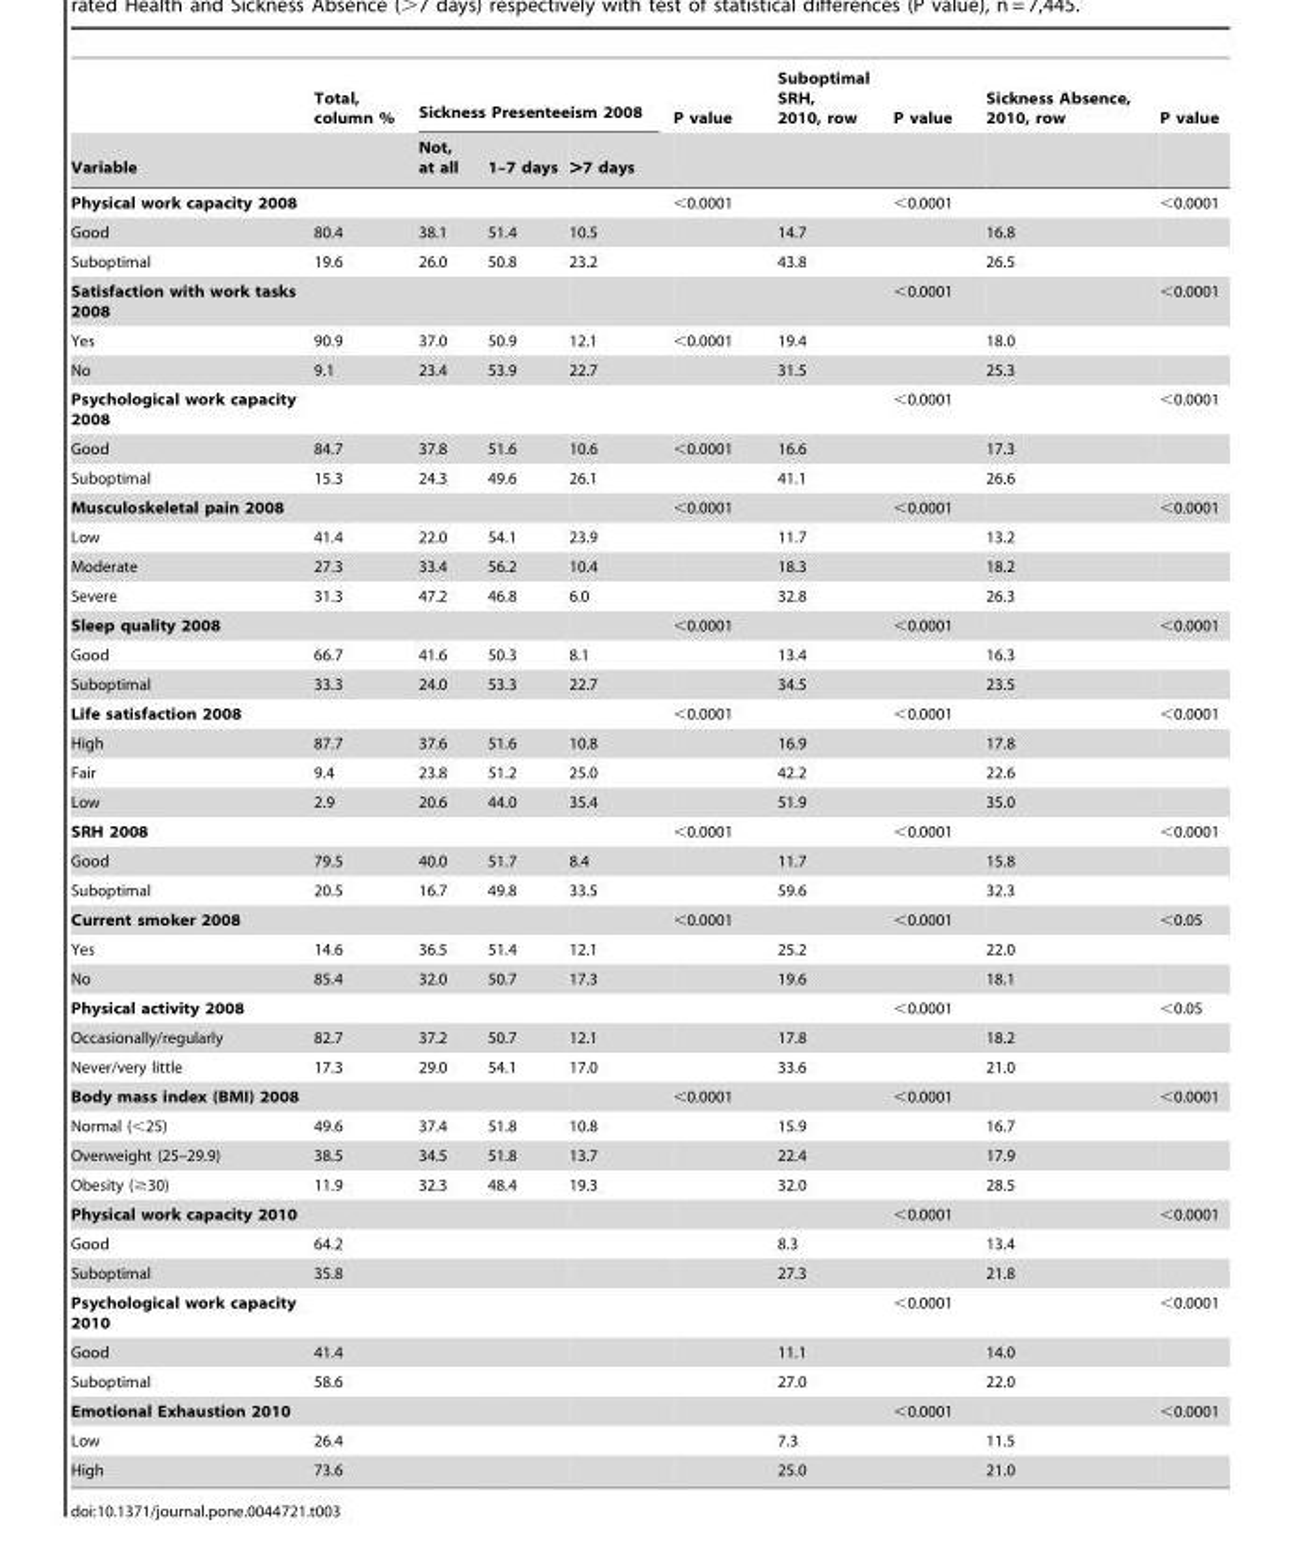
<table><thead><tr><td rowspan="2">Variable</td><td rowspan="2">Total, column %</td><td colspan="3">Sickness Presenteeism 2008</td><td rowspan="2">P value</td><td rowspan="2">Suboptimal SRH, 2010, row</td><td rowspan="2">P value</td><td rowspan="2">Sickness Absence, 2010, row</td><td rowspan="2">P value</td></tr><tr><td>Not, at all</td><td>1–7 days</td><td>&gt;7 days</td></tr></thead><tbody><tr><td>Physical work capacity 2008</td><td></td><td></td><td></td><td></td><td>&lt;0.0001</td><td></td><td>&lt;0.0001</td><td></td><td>&lt;0.0001</td></tr><tr><td>Good</td><td>80.4</td><td>38.1</td><td>51.4</td><td>10.5</td><td></td><td>14.7</td><td></td><td>16.8</td><td></td></tr><tr><td>Suboptimal</td><td>19.6</td><td>26.0</td><td>50.8</td><td>23.2</td><td></td><td>43.8</td><td></td><td>26.5</td><td></td></tr><tr><td>Satisfaction with work tasks 2008</td><td></td><td></td><td></td><td></td><td></td><td></td><td>&lt;0.0001</td><td></td><td>&lt;0.0001</td></tr><tr><td>Yes</td><td>90.9</td><td>37.0</td><td>50.9</td><td>12.1</td><td>&lt;0.0001</td><td>19.4</td><td></td><td>18.0</td><td></td></tr><tr><td>No</td><td>9.1</td><td>23.4</td><td>53.9</td><td>22.7</td><td></td><td>31.5</td><td></td><td>25.3</td><td></td></tr><tr><td>Psychological work capacity 2008</td><td></td><td></td><td></td><td></td><td></td><td></td><td>&lt;0.0001</td><td></td><td>&lt;0.0001</td></tr><tr><td>Good</td><td>84.7</td><td>37.8</td><td>51.6</td><td>10.6</td><td>&lt;0.0001</td><td>16.6</td><td></td><td>17.3</td><td></td></tr><tr><td>Suboptimal</td><td>15.3</td><td>24.3</td><td>49.6</td><td>26.1</td><td></td><td>41.1</td><td></td><td>26.6</td><td></td></tr><tr><td>Musculoskeletal pain 2008</td><td></td><td></td><td></td><td></td><td>&lt;0.0001</td><td></td><td>&lt;0.0001</td><td></td><td>&lt;0.0001</td></tr><tr><td>Low</td><td>41.4</td><td>22.0</td><td>54.1</td><td>23.9</td><td></td><td>11.7</td><td></td><td>13.2</td><td></td></tr><tr><td>Moderate</td><td>27.3</td><td>33.4</td><td>56.2</td><td>10.4</td><td></td><td>18.3</td><td></td><td>18.2</td><td></td></tr><tr><td>Severe</td><td>31.3</td><td>47.2</td><td>46.8</td><td>6.0</td><td></td><td>32.8</td><td></td><td>26.3</td><td></td></tr><tr><td>Sleep quality 2008</td><td></td><td></td><td></td><td></td><td>&lt;0.0001</td><td></td><td>&lt;0.0001</td><td></td><td>&lt;0.0001</td></tr><tr><td>Good</td><td>66.7</td><td>41.6</td><td>50.3</td><td>8.1</td><td></td><td>13.4</td><td></td><td>16.3</td><td></td></tr><tr><td>Suboptimal</td><td>33.3</td><td>24.0</td><td>53.3</td><td>22.7</td><td></td><td>34.5</td><td></td><td>23.5</td><td></td></tr><tr><td>Life satisfaction 2008</td><td></td><td></td><td></td><td></td><td>&lt;0.0001</td><td></td><td>&lt;0.0001</td><td></td><td>&lt;0.0001</td></tr><tr><td>High</td><td>87.7</td><td>37.6</td><td>51.6</td><td>10.8</td><td></td><td>16.9</td><td></td><td>17.8</td><td></td></tr><tr><td>Fair</td><td>9.4</td><td>23.8</td><td>51.2</td><td>25.0</td><td></td><td>42.2</td><td></td><td>22.6</td><td></td></tr><tr><td>Low</td><td>2.9</td><td>20.6</td><td>44.0</td><td>35.4</td><td></td><td>51.9</td><td></td><td>35.0</td><td></td></tr><tr><td>SRH 2008</td><td></td><td></td><td></td><td></td><td>&lt;0.0001</td><td></td><td>&lt;0.0001</td><td></td><td>&lt;0.0001</td></tr><tr><td>Good</td><td>79.5</td><td>40.0</td><td>51.7</td><td>8.4</td><td></td><td>11.7</td><td></td><td>15.8</td><td></td></tr><tr><td>Suboptimal</td><td>20.5</td><td>16.7</td><td>49.8</td><td>33.5</td><td></td><td>59.6</td><td></td><td>32.3</td><td></td></tr><tr><td>Current smoker 2008</td><td></td><td></td><td></td><td></td><td>&lt;0.0001</td><td></td><td>&lt;0.0001</td><td></td><td>&lt;0.05</td></tr><tr><td>Yes</td><td>14.6</td><td>36.5</td><td>51.4</td><td>12.1</td><td></td><td>25.2</td><td></td><td>22.0</td><td></td></tr><tr><td>No</td><td>85.4</td><td>32.0</td><td>50.7</td><td>17.3</td><td></td><td>19.6</td><td></td><td>18.1</td><td></td></tr><tr><td>Physical activity 2008</td><td></td><td></td><td></td><td></td><td></td><td></td><td>&lt;0.0001</td><td></td><td>&lt;0.05</td></tr><tr><td>Occasionally/regularly</td><td>82.7</td><td>37.2</td><td>50.7</td><td>12.1</td><td></td><td>17.8</td><td></td><td>18.2</td><td></td></tr><tr><td>Never/very little</td><td>17.3</td><td>29.0</td><td>54.1</td><td>17.0</td><td></td><td>33.6</td><td></td><td>21.0</td><td></td></tr><tr><td>Body mass index (BMI) 2008</td><td></td><td></td><td></td><td></td><td>&lt;0.0001</td><td></td><td>&lt;0.0001</td><td></td><td>&lt;0.0001</td></tr><tr><td>Normal (&lt;25)</td><td>49.6</td><td>37.4</td><td>51.8</td><td>10.8</td><td></td><td>15.9</td><td></td><td>16.7</td><td></td></tr><tr><td>Overweight (25–29.9)</td><td>38.5</td><td>34.5</td><td>51.8</td><td>13.7</td><td></td><td>22.4</td><td></td><td>17.9</td><td></td></tr><tr><td>Obesity (≥30)</td><td>11.9</td><td>32.3</td><td>48.4</td><td>19.3</td><td></td><td>32.0</td><td></td><td>28.5</td><td></td></tr><tr><td>Physical work capacity 2010</td><td></td><td></td><td></td><td></td><td></td><td></td><td>&lt;0.0001</td><td></td><td>&lt;0.0001</td></tr><tr><td>Good</td><td>64.2</td><td></td><td></td><td></td><td></td><td>8.3</td><td></td><td>13.4</td><td></td></tr><tr><td>Suboptimal</td><td>35.8</td><td></td><td></td><td></td><td></td><td>27.3</td><td></td><td>21.8</td><td></td></tr><tr><td>Psychological work capacity 2010</td><td></td><td></td><td></td><td></td><td></td><td></td><td>&lt;0.0001</td><td></td><td>&lt;0.0001</td></tr><tr><td>Good</td><td>41.4</td><td></td><td></td><td></td><td></td><td>11.1</td><td></td><td>14.0</td><td></td></tr><tr><td>Suboptimal</td><td>58.6</td><td></td><td></td><td></td><td></td><td>27.0</td><td></td><td>22.0</td><td></td></tr><tr><td>Emotional Exhaustion 2010</td><td></td><td></td><td></td><td></td><td></td><td></td><td>&lt;0.0001</td><td></td><td>&lt;0.0001</td></tr><tr><td>Low</td><td>26.4</td><td></td><td></td><td></td><td></td><td>7.3</td><td></td><td>11.5</td><td></td></tr><tr><td>High</td><td>73.6</td><td></td><td></td><td></td><td></td><td>25.0</td><td></td><td>21.0</td><td></td></tr></tbody></table>